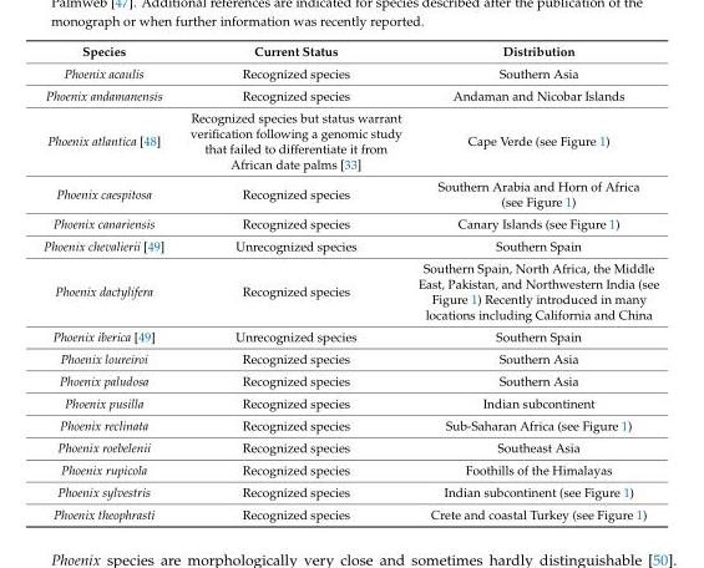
<table><thead><tr><td>Species</td><td>Current Status</td><td>Distribution</td></tr></thead><tbody><tr><td>Phoenix acaulis</td><td>Recognized species</td><td>Southern Asia</td></tr><tr><td>Phoenix andamanensis</td><td>Recognized species</td><td>Andaman and Nicobar Islands</td></tr><tr><td>Phoenix atlantica [48]</td><td>Recognized species but status warrant verification following a genomic study that failed to differentiate it from African date palms [33]</td><td>Cape Verde (see Figure 1)</td></tr><tr><td>Phoenix caespitosa</td><td>Recognized species</td><td>Southern Arabia and Horn of Africa (see Figure 1)</td></tr><tr><td>Phoenix canariensis</td><td>Recognized species</td><td>Canary Islands (see Figure 1)</td></tr><tr><td>Phoenix chevalierii [49]</td><td>Unrecognized species</td><td>Southern Spain</td></tr><tr><td>Phoenix dactylifera</td><td>Recognized species</td><td>Southern Spain, North Africa, the Middle East, Pakistan, and Northwestern India (see Figure 1) Recently introduced in many locations including California and China</td></tr><tr><td>Phoenix iberica [49]</td><td>Unrecognized species</td><td>Southern Spain</td></tr><tr><td>Phoenix loureiroi</td><td>Recognized species</td><td>Southern Asia</td></tr><tr><td>Phoenix paludosa</td><td>Recognized species</td><td>Southern Asia</td></tr><tr><td>Phoenix pusilla</td><td>Recognized species</td><td>Indian subcontinent</td></tr><tr><td>Phoenix reclinata</td><td>Recognized species</td><td>Sub-Saharan Africa (see Figure 1)</td></tr><tr><td>Phoenix roebelenii</td><td>Recognized species</td><td>Southeast Asia</td></tr><tr><td>Phoenix rupicola</td><td>Recognized species</td><td>Foothills of the Himalayas</td></tr><tr><td>Phoenix sylvestris</td><td>Recognized species</td><td>Indian subcontinent (see Figure 1)</td></tr><tr><td>Phoenix theophrasti</td><td>Recognized species</td><td>Crete and coastal Turkey (see Figure 1)</td></tr></tbody></table>